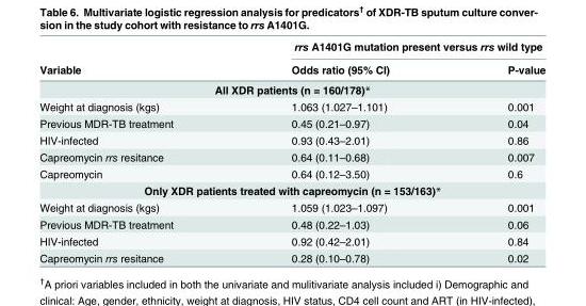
<table><thead><tr><td rowspan="2">Variable</td><td colspan="2">rrs A1401G mutation present versus rrs wild type</td></tr><tr><td>Odds ratio (95% CI)</td><td>P-value</td></tr></thead><tbody><tr><td colspan="3">All XDR patients (n = 160/178)*</td></tr><tr><td>Weight at diagnosis (kgs)</td><td>1.063 (1.027–1.101)</td><td>0.001</td></tr><tr><td>Previous MDR-TB treatment</td><td>0.45 (0.21–0.97)</td><td>0.04</td></tr><tr><td>HIV-infected</td><td>0.93 (0.43–2.01)</td><td>0.86</td></tr><tr><td>Capreomycin rrs resitance</td><td>0.64 (0.11–0.68)</td><td>0.007</td></tr><tr><td>Capreomycin</td><td>0.64 (0.12–3.50)</td><td>0.6</td></tr><tr><td colspan="3">Only XDR patients treated with capreomycin (n = 153/163)*</td></tr><tr><td>Weight at diagnosis (kgs)</td><td>1.059 (1.023–1.097)</td><td>0.001</td></tr><tr><td>Previous MDR-TB treatment</td><td>0.48 (0.22–1.03)</td><td>0.06</td></tr><tr><td>HIV-infected</td><td>0.92 (0.42–2.01)</td><td>0.84</td></tr><tr><td>Capreomycin rrs resitance</td><td>0.28 (0.10–0.78)</td><td>0.02</td></tr></tbody></table>